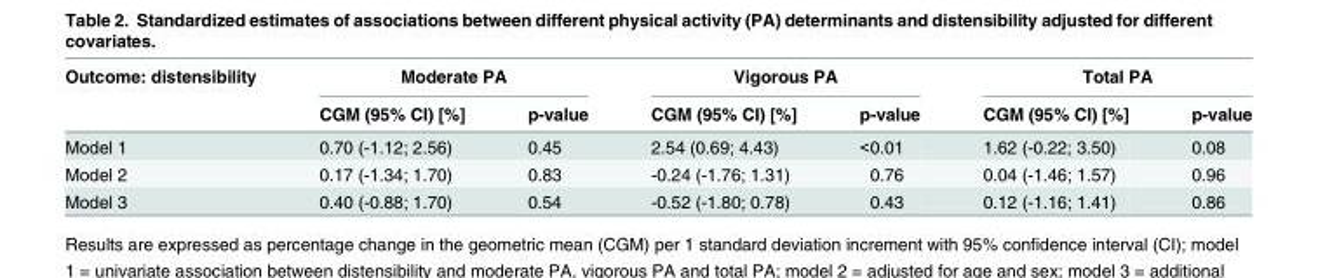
<table><thead><tr><td rowspan="2">Outcome: distensibility</td><td colspan="2">Moderate PA</td><td colspan="2">Vigorous PA</td><td colspan="2">Total PA</td></tr><tr><td>CGM (95% CI) [%]</td><td>p-value</td><td>CGM (95% CI) [%]</td><td>p-value</td><td>CGM (95% CI) [%]</td><td>p-value</td></tr></thead><tbody><tr><td>Model 1</td><td>0.70 (-1.12; 2.56)</td><td>0.45</td><td>2.54 (0.69; 4.43)</td><td>&lt;0.01</td><td>1.62 (-0.22; 3.50)</td><td>0.08</td></tr><tr><td>Model 2</td><td>0.17 (-1.34; 1.70)</td><td>0.83</td><td>-0.24 (-1.76; 1.31)</td><td>0.76</td><td>0.04 (-1.46; 1.57)</td><td>0.96</td></tr><tr><td>Model 3</td><td>0.40 (-0.88; 1.70)</td><td>0.54</td><td>-0.52 (-1.80; 0.78)</td><td>0.43</td><td>0.12 (-1.16; 1.41)</td><td>0.86</td></tr></tbody></table>